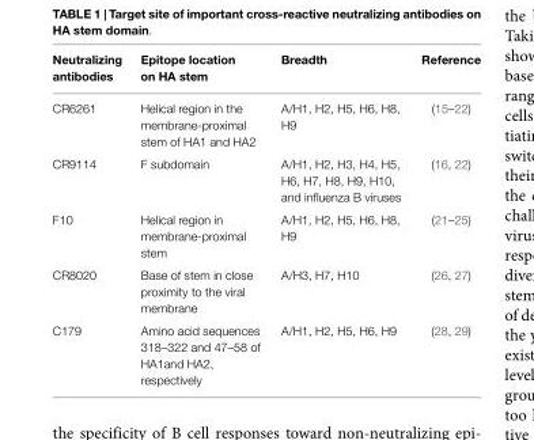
<table><thead><tr><td>Neutralizing antibodies</td><td>Epitope location on HA stem</td><td>Breadth</td><td>Reference</td></tr></thead><tbody><tr><td>CR6261</td><td>Helical region in the membrane-proximal stem of HA1 and HA2</td><td>A/H1, H2, H5, H6, H8, H9</td><td>(15–22)</td></tr><tr><td>CR9114</td><td>F subdomain</td><td>A/H1, H2, H3, H4, H5, H6, H7, H8, H9, H10, and influenza B viruses</td><td>(16, 22)</td></tr><tr><td>F10</td><td>Helical region in membrane-proximal stem</td><td>A/H1, H2, H5, H6, H8, H9</td><td>(21–25)</td></tr><tr><td>CR8020</td><td>Base of stem in close proximity to the viral membrane</td><td>A/H3, H7, H10</td><td>(26, 27)</td></tr><tr><td>C179</td><td>Amino acid sequences 318–322 and 47–58 of HA1and HA2, respectively</td><td>A/H1, H2, H5, H6, H9</td><td>(28, 29)</td></tr></tbody></table>